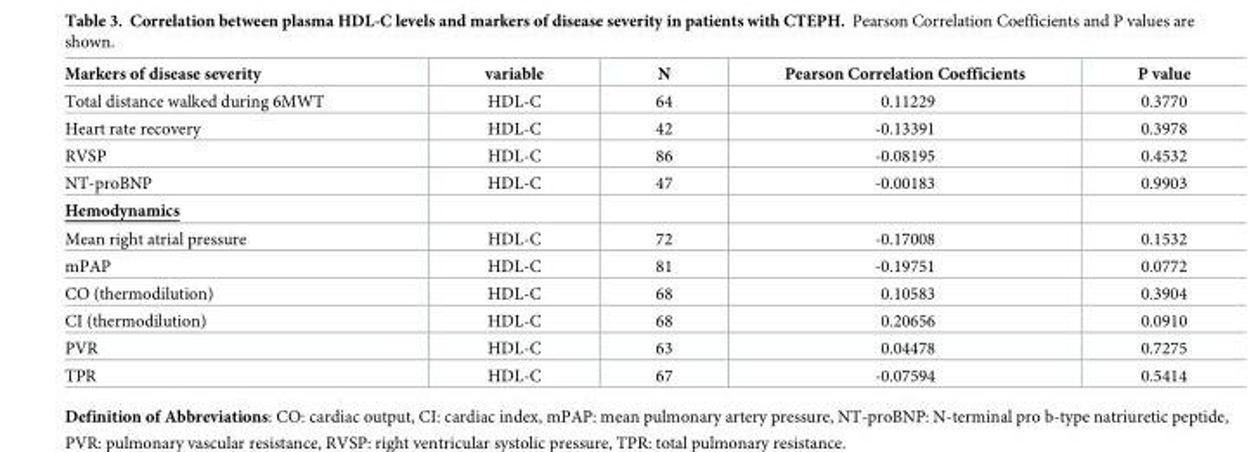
<table><thead><tr><td>Markers of disease severity</td><td>variable</td><td>N</td><td>Pearson Correlation Coefficients</td><td>P value</td></tr></thead><tbody><tr><td>Total distance walked during 6MWT</td><td>HDL-C</td><td>64</td><td>0.11229</td><td>0.3770</td></tr><tr><td>Heart rate recovery</td><td>HDL-C</td><td>42</td><td>-0.13391</td><td>0.3978</td></tr><tr><td>RVSP</td><td>HDL-C</td><td>86</td><td>-0.08195</td><td>0.4532</td></tr><tr><td>NT-proBNP</td><td>HDL-C</td><td>47</td><td>-0.00183</td><td>0.9903</td></tr><tr><td colspan="5">Hemodynamics</td></tr><tr><td>Mean right atrial pressure</td><td>HDL-C</td><td>72</td><td>-0.17008</td><td>0.1532</td></tr><tr><td>mPAP</td><td>HDL-C</td><td>81</td><td>-0.19751</td><td>0.0772</td></tr><tr><td>CO (thermodilution)</td><td>HDL-C</td><td>68</td><td>0.10583</td><td>0.3904</td></tr><tr><td>CI (thermodilution)</td><td>HDL-C</td><td>68</td><td>0.20656</td><td>0.0910</td></tr><tr><td>PVR</td><td>HDL-C</td><td>63</td><td>0.04478</td><td>0.7275</td></tr><tr><td>TPR</td><td>HDL-C</td><td>67</td><td>-0.07594</td><td>0.5414</td></tr></tbody></table>